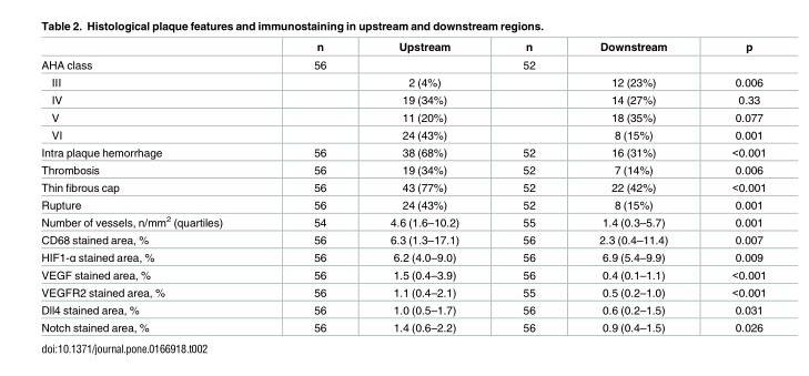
<table><thead><tr><td></td><td>n</td><td>Upstream</td><td>n</td><td>Downstream</td><td>p</td></tr></thead><tbody><tr><td>AHA class</td><td>56</td><td></td><td>52</td><td></td><td></td></tr><tr><td>III</td><td></td><td>2 (4%)</td><td></td><td>12 (23%)</td><td>0.006</td></tr><tr><td>IV</td><td></td><td>19 (34%)</td><td></td><td>14 (27%)</td><td>0.33</td></tr><tr><td>V</td><td></td><td>11 (20%)</td><td></td><td>18 (35%)</td><td>0.077</td></tr><tr><td>VI</td><td></td><td>24 (43%)</td><td></td><td>8 (15%)</td><td>0.001</td></tr><tr><td>Intra plaque hemorrhage</td><td>56</td><td>38 (68%)</td><td>52</td><td>16 (31%)</td><td>&lt;0.001</td></tr><tr><td>Thrombosis</td><td>56</td><td>19 (34%)</td><td>52</td><td>7 (14%)</td><td>0.006</td></tr><tr><td>Thin fibrous cap</td><td>56</td><td>43 (77%)</td><td>52</td><td>22 (42%)</td><td>&lt;0.001</td></tr><tr><td>Rupture</td><td>56</td><td>24 (43%)</td><td>52</td><td>8 (15%)</td><td>0.001</td></tr><tr><td>Number of vessels, n/mm<sup>2</sup> (quartiles)</td><td>54</td><td>4.6 (1.6–10.2)</td><td>55</td><td>1.4 (0.3–5.7)</td><td>0.001</td></tr><tr><td>CD68 stained area, %</td><td>56</td><td>6.3 (1.3–17.1)</td><td>56</td><td>2.3 (0.4–11.4)</td><td>0.007</td></tr><tr><td>HIF1-α stained area, %</td><td>56</td><td>6.2 (4.0–9.0)</td><td>56</td><td>6.9 (5.4–9.9)</td><td>0.009</td></tr><tr><td>VEGF stained area, %</td><td>56</td><td>1.5 (0.4–3.9)</td><td>56</td><td>0.4 (0.1–1.1)</td><td>&lt;0.001</td></tr><tr><td>VEGFR2 stained area, %</td><td>56</td><td>1.1 (0.4–2.1)</td><td>55</td><td>0.5 (0.2–1.0)</td><td>&lt;0.001</td></tr><tr><td>Dll4 stained area, %</td><td>56</td><td>1.0 (0.5–1.7)</td><td>56</td><td>0.6 (0.2–1.5)</td><td>0.031</td></tr><tr><td>Notch stained area, %</td><td>56</td><td>1.4 (0.6–2.2)</td><td>56</td><td>0.9 (0.4–1.5)</td><td>0.026</td></tr></tbody></table>